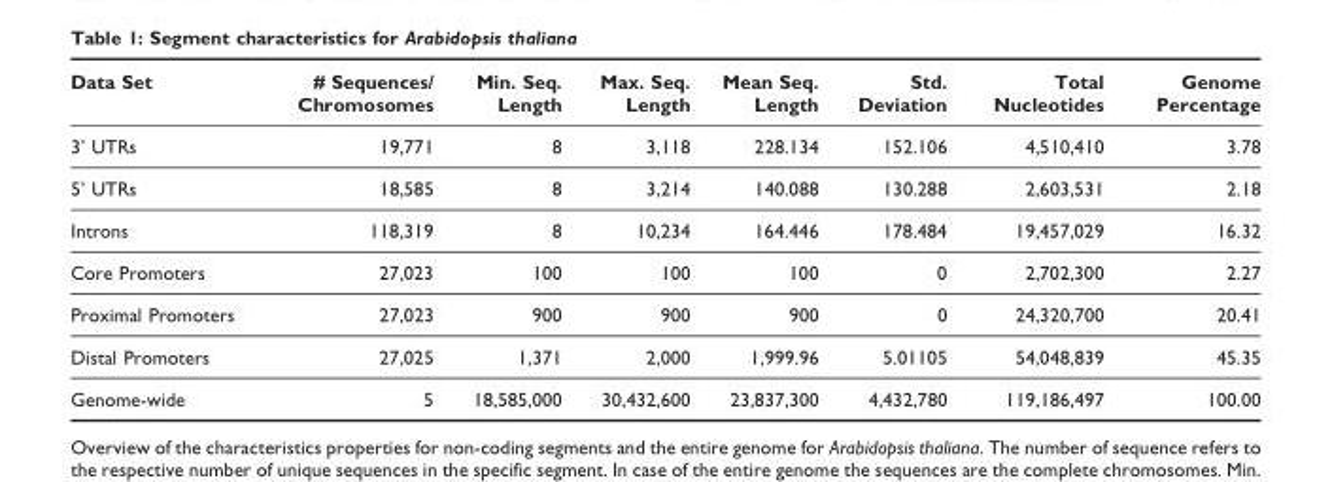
<table><thead><tr><td>Data Set</td><td># Sequences/ Chromosomes</td><td>Min. Seq. Length</td><td>Max. Seq. Length</td><td>Mean Seq. Length</td><td>Std. Deviation</td><td>Total Nucleotides</td><td>Genome Percentage</td></tr></thead><tbody><tr><td>3’ UTRs</td><td>19,771</td><td>8</td><td>3,118</td><td>228.134</td><td>152.106</td><td>4,510,410</td><td>3.78</td></tr><tr><td>5’ UTRs</td><td>18,585</td><td>8</td><td>3,214</td><td>140.088</td><td>130.288</td><td>2,603,531</td><td>2.18</td></tr><tr><td>Introns</td><td>118,319</td><td>8</td><td>10,234</td><td>164.446</td><td>178.484</td><td>19,457,029</td><td>16.32</td></tr><tr><td>Core Promoters</td><td>27,023</td><td>100</td><td>100</td><td>100</td><td>0</td><td>2,702,300</td><td>2.27</td></tr><tr><td>Proximal Promoters</td><td>27,023</td><td>900</td><td>900</td><td>900</td><td>0</td><td>24,320,700</td><td>20.41</td></tr><tr><td>Distal Promoters</td><td>27,025</td><td>1,371</td><td>2,000</td><td>1,999.96</td><td>5.01105</td><td>54,048,839</td><td>45.35</td></tr><tr><td>Genome-wide</td><td>5</td><td>18,585,000</td><td>30,432,600</td><td>23,837,300</td><td>4,432,780</td><td>119,186,497</td><td>100.00</td></tr></tbody></table>